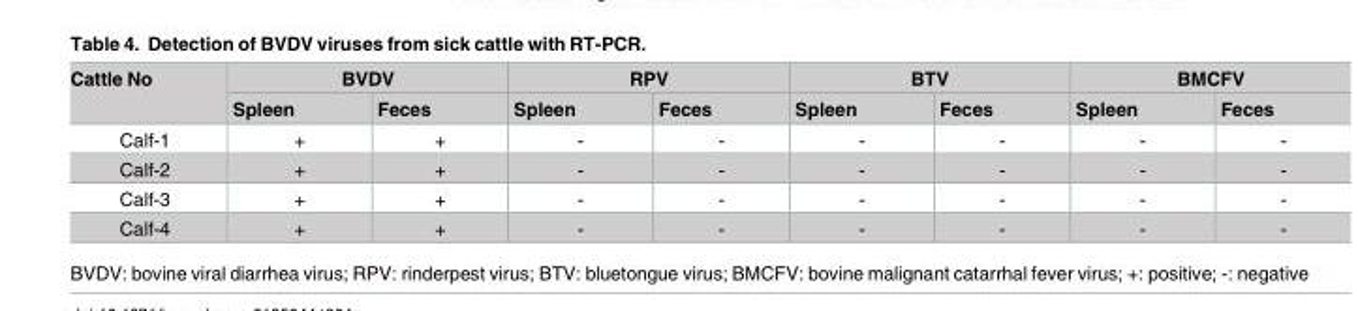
<table><thead><tr><td rowspan="2">Cattle No</td><td colspan="2">BVDV</td><td colspan="2">RPV</td><td colspan="2">BTV</td><td colspan="2">BMCFV</td></tr><tr><td>Spleen</td><td>Feces</td><td>Spleen</td><td>Feces</td><td>Spleen</td><td>Feces</td><td>Spleen</td><td>Feces</td></tr></thead><tbody><tr><td>Calf-1</td><td>+</td><td>+</td><td>-</td><td>-</td><td>-</td><td>-</td><td>-</td><td>-</td></tr><tr><td>Calf-2</td><td>+</td><td>+</td><td>-</td><td>-</td><td>-</td><td>-</td><td>-</td><td>-</td></tr><tr><td>Calf-3</td><td>+</td><td>+</td><td>-</td><td>-</td><td>-</td><td>-</td><td>-</td><td>-</td></tr><tr><td>Calf-4</td><td>+</td><td>+</td><td>-</td><td>-</td><td>-</td><td>-</td><td>-</td><td>-</td></tr></tbody></table>